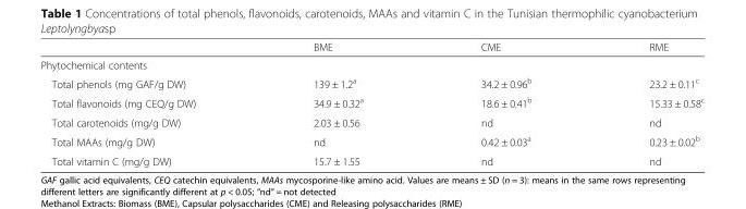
<table><thead><tr><td></td><td>BME</td><td>CME</td><td>RME</td></tr></thead><tbody><tr><td colspan="4">Phytochemical contents</td></tr><tr><td>Total phenols (mg GAF/g DW)</td><td>139 ± 1.2<sup>a</sup></td><td>34.2 ± 0.96<sup>b</sup></td><td>23.2 ± 0.11<sup>c</sup></td></tr><tr><td>Total flavonoids (mg CEQ/g DW)</td><td>34.9 ± 0.32<sup>a</sup></td><td>18.6 ± 0.41<sup>b</sup></td><td>15.33 ± 0.58<sup>c</sup></td></tr><tr><td>Total carotenoids (mg/g DW)</td><td>2.03 ± 0.56</td><td>nd</td><td>nd</td></tr><tr><td>Total MAAs (mg/g DW)</td><td>nd</td><td>0.42 ± 0.03<sup>a</sup></td><td>0.23 ± 0.02<sup>b</sup></td></tr><tr><td>Total vitamin C (mg/g DW)</td><td>15.7 ± 1.55</td><td>nd</td><td>nd</td></tr></tbody></table>